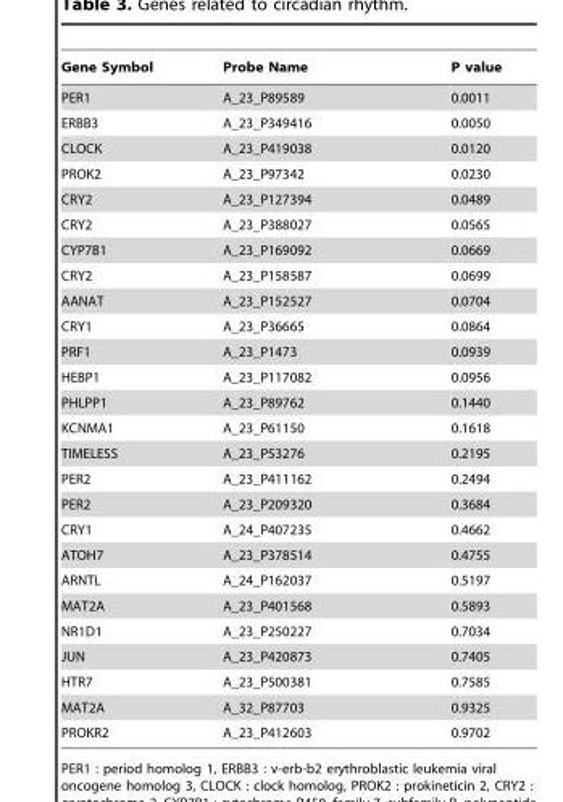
<table><thead><tr><td>Gene Symbol</td><td>Probe Name</td><td>P value</td></tr></thead><tbody><tr><td>PER1</td><td>A_23_P89589</td><td>0.0011</td></tr><tr><td>ERBB3</td><td>A_23_P349416</td><td>0.0050</td></tr><tr><td>CLOCK</td><td>A_23_P419038</td><td>0.0120</td></tr><tr><td>PROK2</td><td>A_23_P97342</td><td>0.0230</td></tr><tr><td>CRY2</td><td>A_23_P127394</td><td>0.0489</td></tr><tr><td>CRY2</td><td>A_23_P388027</td><td>0.0565</td></tr><tr><td>CYP7B1</td><td>A_23_P169092</td><td>0.0669</td></tr><tr><td>CRY2</td><td>A_23_P158587</td><td>0.0699</td></tr><tr><td>AANAT</td><td>A_23_P152527</td><td>0.0704</td></tr><tr><td>CRY1</td><td>A_23_P36665</td><td>0.0864</td></tr><tr><td>PRF1</td><td>A_23_P1473</td><td>0.0939</td></tr><tr><td>HEBP1</td><td>A_23_P117082</td><td>0.0956</td></tr><tr><td>PHLPP1</td><td>A_23_P89762</td><td>0.1440</td></tr><tr><td>KCNMA1</td><td>A_23_P61150</td><td>0.1618</td></tr><tr><td>TIMELESS</td><td>A_23_P53276</td><td>0.2195</td></tr><tr><td>PER2</td><td>A_23_P411162</td><td>0.2494</td></tr><tr><td>PER2</td><td>A_23_P209320</td><td>0.3684</td></tr><tr><td>CRY1</td><td>A_24_P407235</td><td>0.4662</td></tr><tr><td>ATOH7</td><td>A_23_P378514</td><td>0.4755</td></tr><tr><td>ARNTL</td><td>A_24_P162037</td><td>0.5197</td></tr><tr><td>MAT2A</td><td>A_23_P401568</td><td>0.5893</td></tr><tr><td>NR1D1</td><td>A_23_P250227</td><td>0.7034</td></tr><tr><td>JUN</td><td>A_23_P420873</td><td>0.7405</td></tr><tr><td>HTR7</td><td>A_23_P500381</td><td>0.7585</td></tr><tr><td>MAT2A</td><td>A_32_P87703</td><td>0.9325</td></tr><tr><td>PROKR2</td><td>A_23_P412603</td><td>0.9702</td></tr></tbody></table>